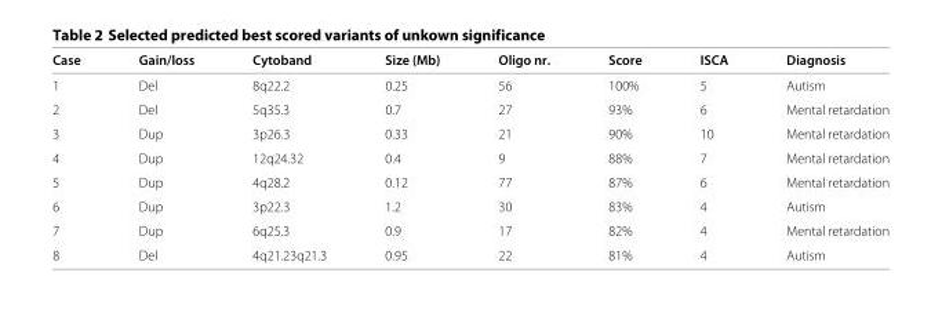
<table><thead><tr><td>Case</td><td>Gain/loss</td><td>Cytoband</td><td>Size (Mb)</td><td>Oligo nr.</td><td>Score</td><td>ISCA</td><td>Diagnosis</td></tr></thead><tbody><tr><td>1</td><td>Del</td><td>8q22.2</td><td>0.25</td><td>56</td><td>100%</td><td>5</td><td>Autism</td></tr><tr><td>2</td><td>Del</td><td>5q35.3</td><td>0.7</td><td>27</td><td>93%</td><td>6</td><td>Mental retardation</td></tr><tr><td>3</td><td>Dup</td><td>3p26.3</td><td>0.33</td><td>21</td><td>90%</td><td>10</td><td>Mental retardation</td></tr><tr><td>4</td><td>Dup</td><td>12q24.32</td><td>0.4</td><td>9</td><td>88%</td><td>7</td><td>Mental retardation</td></tr><tr><td>5</td><td>Dup</td><td>4q28.2</td><td>0.12</td><td>77</td><td>87%</td><td>6</td><td>Mental retardation</td></tr><tr><td>6</td><td>Dup</td><td>3p22.3</td><td>1.2</td><td>30</td><td>83%</td><td>4</td><td>Autism</td></tr><tr><td>7</td><td>Dup</td><td>6q25.3</td><td>0.9</td><td>17</td><td>82%</td><td>4</td><td>Mental retardation</td></tr><tr><td>8</td><td>Del</td><td>4q21.23q21.3</td><td>0.95</td><td>22</td><td>81%</td><td>4</td><td>Autism</td></tr></tbody></table>